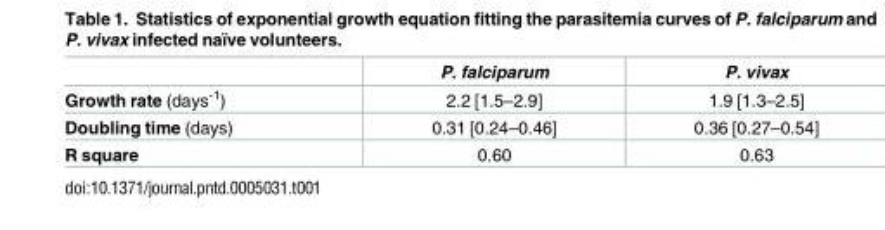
<table><thead><tr><td></td><td>P. falciparum</td><td>P. vivax</td></tr></thead><tbody><tr><td>Growth rate (days<sup>-1</sup>)</td><td>2.2 [1.5–2.9]</td><td>1.9 [1.3–2.5]</td></tr><tr><td>Doubling time (days)</td><td>0.31 [0.24–0.46]</td><td>0.36 [0.27–0.54]</td></tr><tr><td>R square</td><td>0.60</td><td>0.63</td></tr></tbody></table>